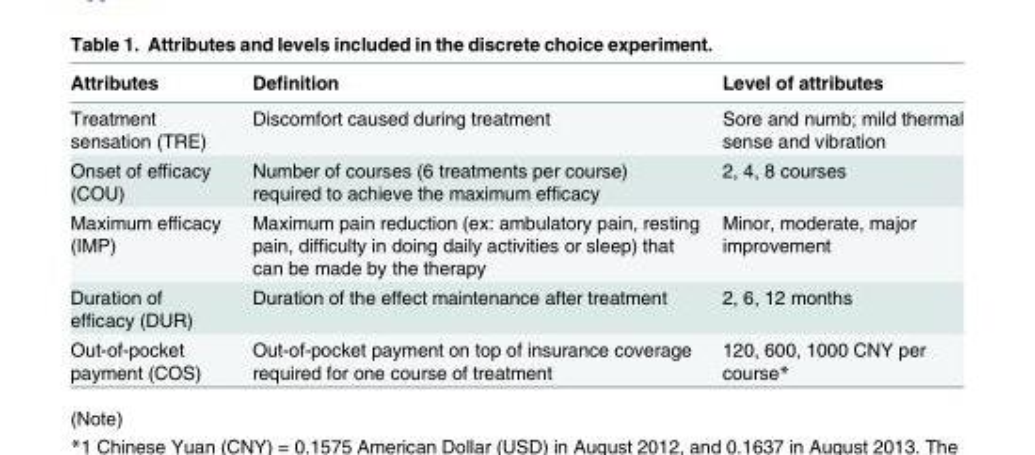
<table><thead><tr><td>Attributes</td><td>Definition</td><td>Level of attributes</td></tr></thead><tbody><tr><td>Treatment sensation (TRE)</td><td>Discomfort caused during treatment</td><td>Sore and numb; mild thermal sense and vibration</td></tr><tr><td>Onset of efficacy (COU)</td><td>Number of courses (6 treatments per course) required to achieve the maximum efficacy</td><td>2, 4, 8 courses</td></tr><tr><td>Maximum efficacy (IMP)</td><td>Maximum pain reduction (ex: ambulatory pain, resting pain, difficulty in doing daily activities or sleep) that can be made by the therapy</td><td>Minor, moderate, major improvement</td></tr><tr><td>Duration of efficacy (DUR)</td><td>Duration of the effect maintenance after treatment</td><td>2, 6, 12 months</td></tr><tr><td>Out-of-pocket payment (COS)</td><td>Out-of-pocket payment on top of insurance coverage required for one course of treatment</td><td>120, 600, 1000 CNY per course*</td></tr></tbody></table>